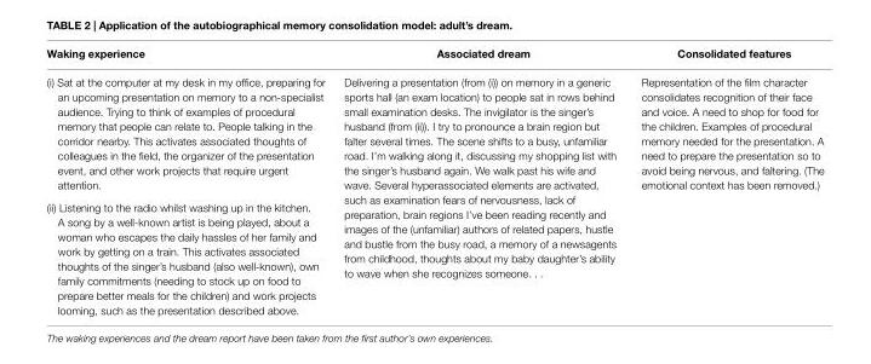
<table><thead><tr><td>Waking experience</td><td>Associated dream</td><td>Consolidated features</td></tr></thead><tbody><tr><td>(i) Sat at the computer at my desk in my office, preparing for an upcoming presentation on memory to a non-specialist audience. Trying to think of examples of procedural memory that people can relate to. People talking in the corridor nearby. This activates associated thoughts of colleagues in the field, the organizer of the presentation event, and other work projects that require urgent attention. (ii) Listening to the radio whilst washing up in the kitchen. A song by a well-known artist is being played, about a woman who escapes the daily hassles of her family and work by getting on a train. This activates associated thoughts of the singer’s husband (also well-known), own family commitments (needing to stock up on food to prepare better meals for the children) and work projects looming, such as the presentation described above.</td><td>Delivering a presentation (from (i)) on memory in a generic sports hall (an exam location) to people sat in rows behind small examination desks. The invigilator is the singer’s husband (from (ii)). I try to pronounce a brain region but falter several times. The scene shifts to a busy, unfamiliar road. I’m walking along it, discussing my shopping list with the singer’s husband again. We walk past his wife and wave. Several hyperassociated elements are activated, such as examination fears of nervousness, lack of preparation, brain regions I’ve been reading recently and images of the (unfamiliar) authors of related papers, hustle and bustle from the busy road, a memory of a newsagents from childhood, thoughts about my baby daughter’s ability to wave when she recognizes someone. . .</td><td>Representation of the film character consolidates recognition of their face and voice. A need to shop for food for the children. Examples of procedural memory needed for the presentation. A need to prepare the presentation so to avoid being nervous, and faltering. (The emotional context has been removed.)</td></tr></tbody></table>